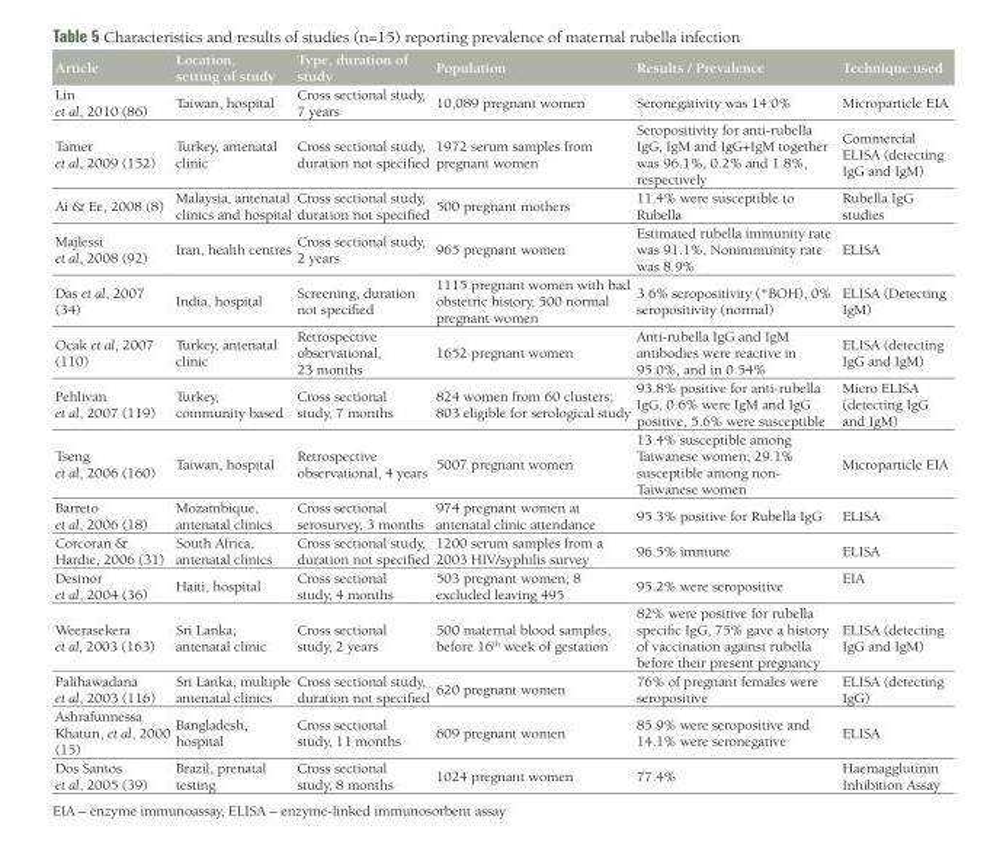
<table><thead><tr><td>Article</td><td>Location, setting of study</td><td>Type, duration of study</td><td>Population</td><td>Results / Prevalence</td><td>Technique used</td></tr></thead><tbody><tr><td>Lin et al, 2010 (86)</td><td>Taiwan, hospital</td><td>Cross sectional study, 7 years</td><td>10,089 pregnant women</td><td>Seronegativity was 14.0%</td><td>Microparticle EIA</td></tr><tr><td>Tamer et al, 2009 (152)</td><td>Turkey, antenatal clinic</td><td>Cross sectional study, duration not specified</td><td>1972 serum samples from pregnant women</td><td>Seropositivity for anti-rubella IgG, IgM and IgG+IgM together was 96.1%, 0.2% and 1.8%, respectively</td><td>Commercial ELISA (detecting IgG and IgM)</td></tr><tr><td>Ai &amp; Ee, 2008 (8)</td><td>Malaysia, antenatal clinics and hospital</td><td>Cross sectional study, duration not specified</td><td>500 pregnant mothers</td><td>11.4% were susceptible to Rubella</td><td>Rubella IgG studies</td></tr><tr><td>Majlessi et al, 2008 (92)</td><td>Iran, health centres</td><td>Cross sectional study, 2 years</td><td>965 pregnant women</td><td>Estimated rubella immunity rate was 91.1%, Nonimmunity rate was 8.9%</td><td>ELISA</td></tr><tr><td>Das et al, 2007 (34)</td><td>India, hospital</td><td>Screening, duration not specified</td><td>1115 pregnant women with bad obstetric history, 500 normal pregnant women</td><td>3.6% seropositivity (*BOH), 0% seropositivity (normal)</td><td>ELISA (Detecting IgM)</td></tr><tr><td>Ocak et al, 2007 (110)</td><td>Turkey, antenatal clinic</td><td>Retrospective observational, 23 months</td><td>1652 pregnant women</td><td>Anti-rubella IgG and IgM antibodies were reactive in 95.0%, and in 0.54%</td><td>ELISA (detecting IgG and IgM)</td></tr><tr><td>Pehlivan et al, 2007 (119)</td><td>Turkey, community based</td><td>Cross sectional study, 7 months</td><td>824 women from 60 clusters; 803 eligible for serological study</td><td>93.8% positive for anti-rubella IgG, 0.6% were IgM and IgG positive, 5.6% were susceptible</td><td>Micro ELISA (detecting IgG and IgM)</td></tr><tr><td>Tseng et al, 2006 (160)</td><td>Taiwan, hospital</td><td>Retrospective observational, 4 years</td><td>5007 pregnant women</td><td>13.4% susceptible among Taiwanese women; 29.1% susceptible among non- Taiwanese women</td><td>Microparticle EIA</td></tr><tr><td>Barreto et al, 2006 (18)</td><td>Mozambique, antenatal clinics</td><td>Cross sectional serosurvey, 3 months</td><td>974 pregnant women at antenatal clinic attendance</td><td>95.3% positive for Rubella IgG</td><td>ELISA</td></tr><tr><td>Corcoran &amp; Hardie, 2006 (31)</td><td>South Africa, antenatal clinics</td><td>Cross sectional study, duration not specified</td><td>1200 serum samples from a 2003 HIV/syphilis survey</td><td>96.5% immune</td><td>ELISA</td></tr><tr><td>Desinor et al, 2004 (36)</td><td>Haiti, hospital</td><td>Cross sectional study, 4 months</td><td>503 pregnant women; 8 excluded leaving 495</td><td>95.2% were seropositive</td><td>EIA</td></tr><tr><td>Weerasekera et al, 2003 (163)</td><td>Sri Lanka, antenatal clinic</td><td>Cross sectional study, 2 years</td><td>500 maternal blood samples, before 16th week of gestation</td><td>82% were positive for rubella specific IgG, 75% gave a history of vaccination against rubella before their present pregnancy</td><td>ELISA (detecting IgG and IgM)</td></tr><tr><td>Palihawadana et al, 2003 (116)</td><td>Sri Lanka, multiple antenatal clinics</td><td>Cross sectional study, duration not specified</td><td>620 pregnant women</td><td>76% of pregnant females were seropositive</td><td>ELISA (detecting IgG)</td></tr><tr><td>Ashrafunnessa Khatun, et al, 2000 (15)</td><td>Bangladesh, hospital</td><td>Cross sectional study, 11 months</td><td>609 pregnant women</td><td>85.9% were seropositive and 14.1% were seronegative</td><td>ELISA</td></tr><tr><td>Dos Santos et al, 2005 (39)</td><td>Brazil, prenatal testing</td><td>Cross sectional study, 8 months</td><td>1024 pregnant women</td><td>77.4%</td><td>Haemagglutinin Inhibition Assay</td></tr></tbody></table>